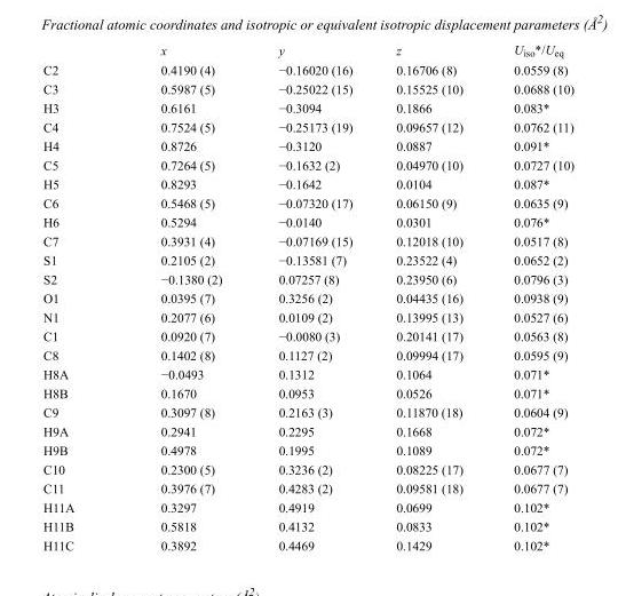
<table><thead><tr><td></td><td>x</td><td>y</td><td>z</td><td>U<sub>iso</sub>*/U<sub>eq</sub></td></tr></thead><tbody><tr><td>C2</td><td>0.4190 (4)</td><td>−0.16020 (16)</td><td>0.16706 (8)</td><td>0.0559 (8)</td></tr><tr><td>C3</td><td>0.5987 (5)</td><td>−0.25022 (15)</td><td>0.15525 (10)</td><td>0.0688 (10)</td></tr><tr><td>H3</td><td>0.6161</td><td>−0.3094</td><td>0.1866</td><td>0.083*</td></tr><tr><td>C4</td><td>0.7524 (5)</td><td>−0.25173 (19)</td><td>0.09657 (12)</td><td>0.0762 (11)</td></tr><tr><td>H4</td><td>0.8726</td><td>−0.3120</td><td>0.0887</td><td>0.091*</td></tr><tr><td>C5</td><td>0.7264 (5)</td><td>−0.1632 (2)</td><td>0.04970 (10)</td><td>0.0727 (10)</td></tr><tr><td>H5</td><td>0.8293</td><td>−0.1642</td><td>0.0104</td><td>0.087*</td></tr><tr><td>C6</td><td>0.5468 (5)</td><td>−0.07320 (17)</td><td>0.06150 (9)</td><td>0.0635 (9)</td></tr><tr><td>H6</td><td>0.5294</td><td>−0.0140</td><td>0.0301</td><td>0.076*</td></tr><tr><td>C7</td><td>0.3931 (4)</td><td>−0.07169 (15)</td><td>0.12018 (10)</td><td>0.0517 (8)</td></tr><tr><td>S1</td><td>0.2105 (2)</td><td>−0.13581 (7)</td><td>0.23522 (4)</td><td>0.0652 (2)</td></tr><tr><td>S2</td><td>−0.1380 (2)</td><td>0.07257 (8)</td><td>0.23950 (6)</td><td>0.0796 (3)</td></tr><tr><td>O1</td><td>0.0395 (7)</td><td>0.3256 (2)</td><td>0.04435 (16)</td><td>0.0938 (9)</td></tr><tr><td>N1</td><td>0.2077 (6)</td><td>0.0109 (2)</td><td>0.13995 (13)</td><td>0.0527 (6)</td></tr><tr><td>C1</td><td>0.0920 (7)</td><td>−0.0080 (3)</td><td>0.20141 (17)</td><td>0.0563 (8)</td></tr><tr><td>C8</td><td>0.1402 (8)</td><td>0.1127 (2)</td><td>0.09994 (17)</td><td>0.0595 (9)</td></tr><tr><td>H8A</td><td>−0.0493</td><td>0.1312</td><td>0.1064</td><td>0.071*</td></tr><tr><td>H8B</td><td>0.1670</td><td>0.0953</td><td>0.0526</td><td>0.071*</td></tr><tr><td>C9</td><td>0.3097 (8)</td><td>0.2163 (3)</td><td>0.11870 (18)</td><td>0.0604 (9)</td></tr><tr><td>H9A</td><td>0.2941</td><td>0.2295</td><td>0.1668</td><td>0.072*</td></tr><tr><td>H9B</td><td>0.4978</td><td>0.1995</td><td>0.1089</td><td>0.072*</td></tr><tr><td>C10</td><td>0.2300 (5)</td><td>0.3236 (2)</td><td>0.08225 (17)</td><td>0.0677 (7)</td></tr><tr><td>C11</td><td>0.3976 (7)</td><td>0.4283 (2)</td><td>0.09581 (18)</td><td>0.0677 (7)</td></tr><tr><td>H11A</td><td>0.3297</td><td>0.4919</td><td>0.0699</td><td>0.102*</td></tr><tr><td>H11B</td><td>0.5818</td><td>0.4132</td><td>0.0833</td><td>0.102*</td></tr><tr><td>H11C</td><td>0.3892</td><td>0.4469</td><td>0.1429</td><td>0.102*</td></tr></tbody></table>